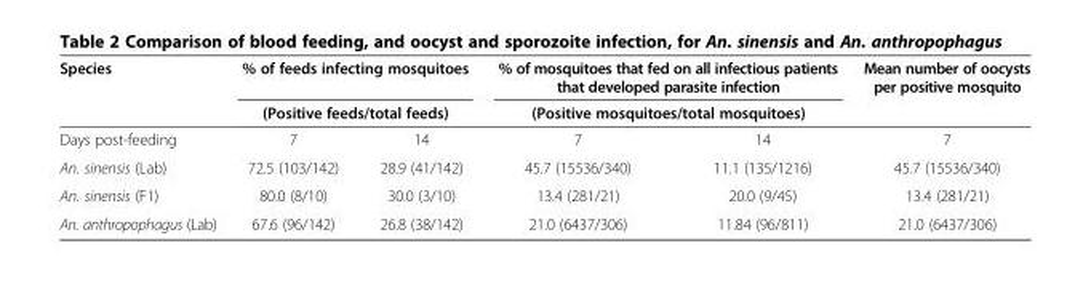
<table><thead><tr><td rowspan="3">Species Days post-feeding</td><td rowspan="2" colspan="2">% of feeds infecting mosquitoes (Positive feeds/total feeds)</td><td rowspan="2" colspan="2">% of mosquitoes that fed on all infectious patients that developed parasite infection (Positive mosquitoes/total mosquitoes)</td><td rowspan="3">Mean number of oocysts per positive mosquito 7</td></tr><tr></tr><tr><td>7</td><td>14</td><td>7</td><td>14</td></tr></thead><tbody><tr><td>An. sinensis (Lab)</td><td>72.5 (103/142)</td><td>28.9 (41/142)</td><td>45.7 (15536/340)</td><td>11.1 (135/1216)</td><td>45.7 (15536/340)</td></tr><tr><td>An. sinensis (F1)</td><td>80.0 (8/10)</td><td>30.0 (3/10)</td><td>13.4 (281/21)</td><td>20.0 (9/45)</td><td>13.4 (281/21)</td></tr><tr><td>An. anthropophagus (Lab)</td><td>67.6 (96/142)</td><td>26.8 (38/142)</td><td>21.0 (6437/306)</td><td>11.84 (96/811)</td><td>21.0 (6437/306)</td></tr></tbody></table>